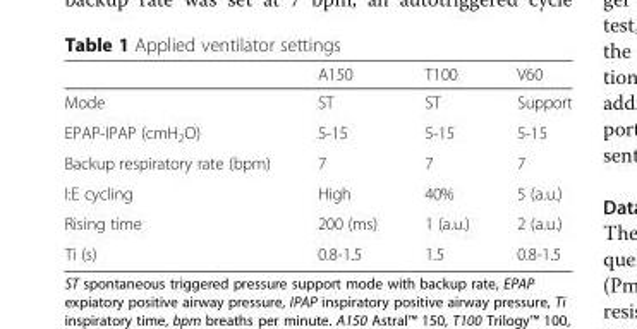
<table><thead><tr><td></td><td>A150</td><td>T100</td><td>V60</td></tr></thead><tbody><tr><td>Mode</td><td>ST</td><td>ST</td><td>Support</td></tr><tr><td>EPAP-IPAP (cmH<sub>2</sub>O)</td><td>5-15</td><td>5-15</td><td>5-15</td></tr><tr><td>Backup respiratory rate (bpm)</td><td>7</td><td>7</td><td>7</td></tr><tr><td>I:E cycling</td><td>High</td><td>40%</td><td>5 (a.u.)</td></tr><tr><td>Rising time</td><td>200 (ms)</td><td>1 (a.u.)</td><td>2 (a.u.)</td></tr><tr><td>Ti (s)</td><td>0.8-1.5</td><td>1.5</td><td>0.8-1.5</td></tr></tbody></table>